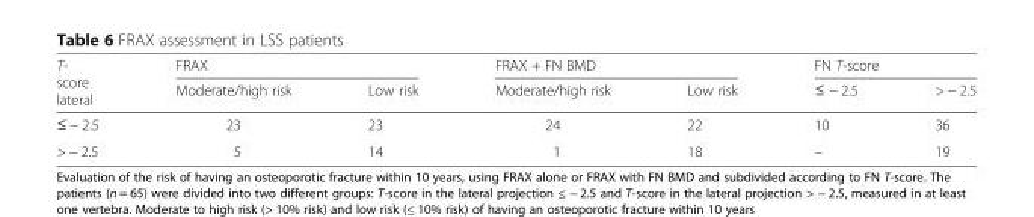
<table><thead><tr><td rowspan="2">T- score lateral</td><td colspan="2">FRAX</td><td colspan="2">FRAX + FN BMD</td><td colspan="2">FN T-score</td></tr><tr><td>Moderate/high risk</td><td>Low risk</td><td>Moderate/high risk</td><td>Low risk</td><td>≤ − 2.5</td><td>&gt; − 2.5</td></tr></thead><tbody><tr><td>≤ − 2.5</td><td>23</td><td>23</td><td>24</td><td>22</td><td>10</td><td>36</td></tr><tr><td>&gt; − 2.5</td><td>5</td><td>14</td><td>1</td><td>18</td><td>–</td><td>19</td></tr></tbody></table>